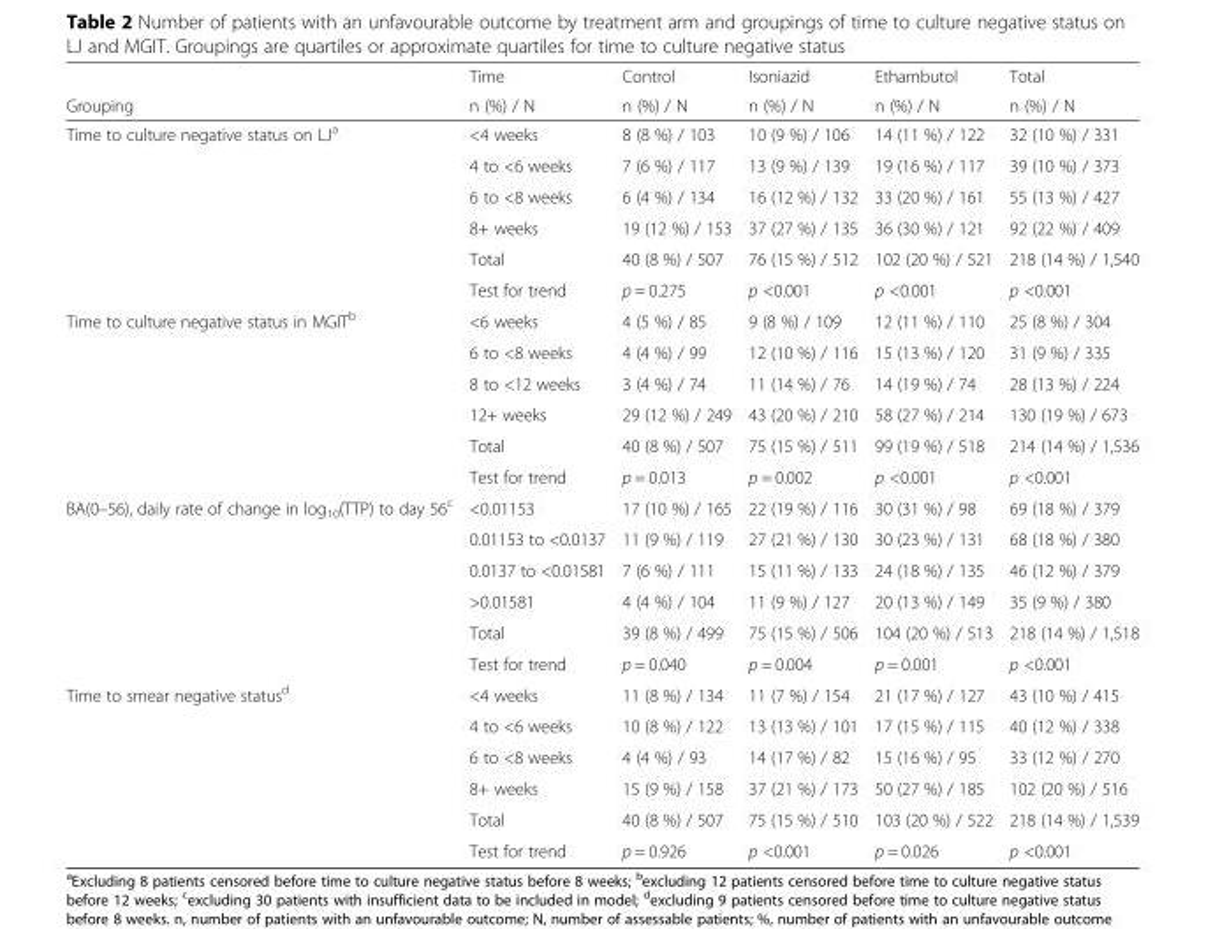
<table><thead><tr><td rowspan="2">Grouping</td><td rowspan="2">Time n (%) / N</td><td rowspan="2">Control n (%) / N</td><td rowspan="2">Isoniazid n (%) / N</td><td rowspan="2">Ethambutol n (%) / N</td><td rowspan="2">Total n (%) / N</td></tr><tr></tr></thead><tbody><tr><td rowspan="6">Time to culture negative status on LJ<sup>a</sup></td><td>&lt;4 weeks</td><td>8 (8 %) / 103</td><td>10 (9 %) / 106</td><td>14 (11 %) / 122</td><td>32 (10 %) / 331</td></tr><tr><td>4 to &lt;6 weeks</td><td>7 (6 %) / 117</td><td>13 (9 %) / 139</td><td>19 (16 %) / 117</td><td>39 (10 %) / 373</td></tr><tr><td>6 to &lt;8 weeks</td><td>6 (4 %) / 134</td><td>16 (12 %) / 132</td><td>33 (20 %) / 161</td><td>55 (13 %) / 427</td></tr><tr><td>8+ weeks</td><td>19 (12 %) / 153</td><td>37 (27 %) / 135</td><td>36 (30 %) / 121</td><td>92 (22 %) / 409</td></tr><tr><td>Total</td><td>40 (8 %) / 507</td><td>76 (15 %) / 512</td><td>102 (20 %) / 521</td><td>218 (14 %) / 1,540</td></tr><tr><td>Test for trend</td><td>p = 0.275</td><td>p &lt;0.001</td><td>p &lt;0.001</td><td>p &lt;0.001</td></tr><tr><td rowspan="6">Time to culture negative status in MGIT<sup>b</sup></td><td>&lt;6 weeks</td><td>4 (5 %) / 85</td><td>9 (8 %) / 109</td><td>12 (11 %) / 110</td><td>25 (8 %) / 304</td></tr><tr><td>6 to &lt;8 weeks</td><td>4 (4 %) / 99</td><td>12 (10 %) / 116</td><td>15 (13 %) / 120</td><td>31 (9 %) / 335</td></tr><tr><td>8 to &lt;12 weeks</td><td>3 (4 %) / 74</td><td>11 (14 %) / 76</td><td>14 (19 %) / 74</td><td>28 (13 %) / 224</td></tr><tr><td>12+ weeks</td><td>29 (12 %) / 249</td><td>43 (20 %) / 210</td><td>58 (27 %) / 214</td><td>130 (19 %) / 673</td></tr><tr><td>Total</td><td>40 (8 %) / 507</td><td>75 (15 %) / 511</td><td>99 (19 %) / 518</td><td>214 (14 %) / 1,536</td></tr><tr><td>Test for trend</td><td>p = 0.013</td><td>p = 0.002</td><td>p &lt;0.001</td><td>p &lt;0.001</td></tr><tr><td rowspan="6">BA(0–56), daily rate of change in log<sub>10</sub>(TTP) to day 56<sup>c</sup></td><td>&lt;0.01153</td><td>17 (10 %) / 165</td><td>22 (19 %) / 116</td><td>30 (31 %) / 98</td><td>69 (18 %) / 379</td></tr><tr><td>0.01153 to &lt;0.0137</td><td>11 (9 %) / 119</td><td>27 (21 %) / 130</td><td>30 (23 %) / 131</td><td>68 (18 %) / 380</td></tr><tr><td>0.0137 to &lt;0.01581</td><td>7 (6 %) / 111</td><td>15 (11 %) / 133</td><td>24 (18 %) / 135</td><td>46 (12 %) / 379</td></tr><tr><td>&gt;0.01581</td><td>4 (4 %) / 104</td><td>11 (9 %) / 127</td><td>20 (13 %) / 149</td><td>35 (9 %) / 380</td></tr><tr><td>Total</td><td>39 (8 %) / 499</td><td>75 (15 %) / 506</td><td>104 (20 %) / 513</td><td>218 (14 %) / 1,518</td></tr><tr><td>Test for trend</td><td>p = 0.040</td><td>p = 0.004</td><td>p = 0.001</td><td>p &lt;0.001</td></tr><tr><td rowspan="6">Time to smear negative status<sup>d</sup></td><td>&lt;4 weeks</td><td>11 (8 %) / 134</td><td>11 (7 %) / 154</td><td>21 (17 %) / 127</td><td>43 (10 %) / 415</td></tr><tr><td>4 to &lt;6 weeks</td><td>10 (8 %) / 122</td><td>13 (13 %) / 101</td><td>17 (15 %) / 115</td><td>40 (12 %) / 338</td></tr><tr><td>6 to &lt;8 weeks</td><td>4 (4 %) / 93</td><td>14 (17 %) / 82</td><td>15 (16 %) / 95</td><td>33 (12 %) / 270</td></tr><tr><td>8+ weeks</td><td>15 (9 %) / 158</td><td>37 (21 %) / 173</td><td>50 (27 %) / 185</td><td>102 (20 %) / 516</td></tr><tr><td>Total</td><td>40 (8 %) / 507</td><td>75 (15 %) / 510</td><td>103 (20 %) / 522</td><td>218 (14 %) / 1,539</td></tr><tr><td>Test for trend</td><td>p = 0.926</td><td>p &lt;0.001</td><td>p = 0.026</td><td>p &lt;0.001</td></tr></tbody></table>